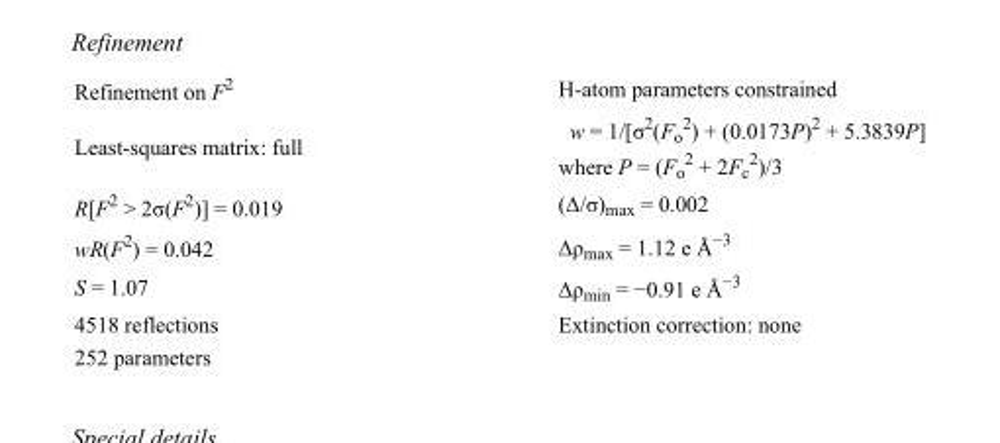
<table><tbody><tr><td>Refinement on F<sup>2</sup></td><td>H-atom parameters constrained</td></tr><tr><td>Least-squares matrix: full</td><td>w = 1/[σ<sup>2</sup>(F<sub>o</sub> <sup>2</sup>) + (0.0173P)<sup>2</sup> + 5.3839P] where P = (F<sub>o</sub> <sup>2</sup> + 2F<sub>c</sub> <sup>2</sup>)/3</td></tr><tr><td>R[F<sup>2</sup> &gt; 2σ(F<sup>2</sup>)] = 0.019</td><td>(Δ/σ)<sub>max</sub> = 0.002</td></tr><tr><td>wR(F<sup>2</sup>) = 0.042</td><td>Δρ<sub>max</sub> = 1.12 e Å<sup>−3</sup></td></tr><tr><td>S = 1.07</td><td>Δρ<sub>min</sub> = −0.91 e Å<sup>−3</sup></td></tr><tr><td>4518 reflections</td><td>Extinction correction: none</td></tr><tr><td>252 parameters</td><td></td></tr></tbody></table>